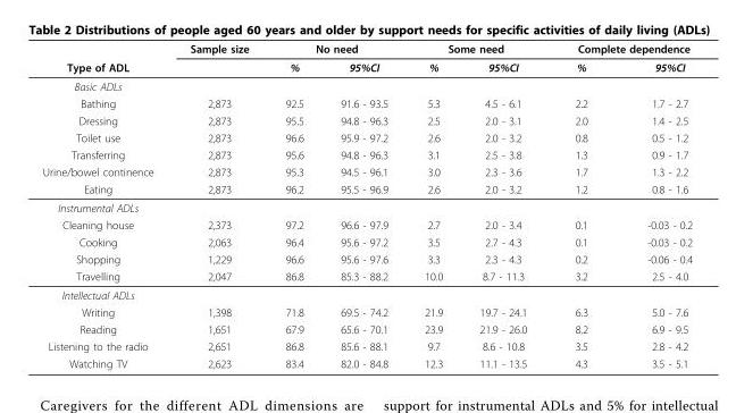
<table><thead><tr><td rowspan="2">Type of ADL</td><td rowspan="2">Sample size</td><td colspan="2">No need</td><td colspan="2">Some need</td><td colspan="2">Complete dependence</td></tr><tr><td>%</td><td>95%CI</td><td>%</td><td>95%CI</td><td>%</td><td>95%CI</td></tr></thead><tbody><tr><td colspan="8">Basic ADLs</td></tr><tr><td>Bathing</td><td>2,873</td><td>92.5</td><td>91.6 - 93.5</td><td>5.3</td><td>4.5 - 6.1</td><td>2.2</td><td>1.7 - 2.7</td></tr><tr><td>Dressing</td><td>2,873</td><td>95.5</td><td>94.8 - 96.3</td><td>2.5</td><td>2.0 - 3.1</td><td>2.0</td><td>1.4 - 2.5</td></tr><tr><td>Toilet use</td><td>2,873</td><td>96.6</td><td>95.9 - 97.2</td><td>2.6</td><td>2.0 - 3.2</td><td>0.8</td><td>0.5 - 1.2</td></tr><tr><td>Transferring</td><td>2,873</td><td>95.6</td><td>94.8 - 96.3</td><td>3.1</td><td>2.5 - 3.8</td><td>1.3</td><td>0.9 - 1.7</td></tr><tr><td>Urine/bowel continence</td><td>2,873</td><td>95.3</td><td>94.5 - 96.1</td><td>3.0</td><td>2.3 - 3.6</td><td>1.7</td><td>1.3 - 2.2</td></tr><tr><td>Eating</td><td>2,873</td><td>96.2</td><td>95.5 - 96.9</td><td>2.6</td><td>2.0 - 3.2</td><td>1.2</td><td>0.8 - 1.6</td></tr><tr><td colspan="8">Instrumental ADLs</td></tr><tr><td>Cleaning house</td><td>2,373</td><td>97.2</td><td>96.6 - 97.9</td><td>2.7</td><td>2.0 - 3.4</td><td>0.1</td><td>-0.03 - 0.2</td></tr><tr><td>Cooking</td><td>2,063</td><td>96.4</td><td>95.6 - 97.2</td><td>3.5</td><td>2.7 - 4.3</td><td>0.1</td><td>-0.03 - 0.2</td></tr><tr><td>Shopping</td><td>1,229</td><td>96.6</td><td>95.6 - 97.6</td><td>3.3</td><td>2.3 - 4.3</td><td>0.2</td><td>-0.06 - 0.4</td></tr><tr><td>Travelling</td><td>2,047</td><td>86.8</td><td>85.3 - 88.2</td><td>10.0</td><td>8.7 - 11.3</td><td>3.2</td><td>2.5 - 4.0</td></tr><tr><td colspan="8">Intellectual ADLs</td></tr><tr><td>Writing</td><td>1,398</td><td>71.8</td><td>69.5 - 74.2</td><td>21.9</td><td>19.7 - 24.1</td><td>6.3</td><td>5.0 - 7.6</td></tr><tr><td>Reading</td><td>1,651</td><td>67.9</td><td>65.6 - 70.1</td><td>23.9</td><td>21.9 - 26.0</td><td>8.2</td><td>6.9 - 9.5</td></tr><tr><td>Listening to the radio</td><td>2,651</td><td>86.8</td><td>85.6 - 88.1</td><td>9.7</td><td>8.6 - 10.8</td><td>3.5</td><td>2.8 - 4.2</td></tr><tr><td>Watching TV</td><td>2,623</td><td>83.4</td><td>82.0 - 84.8</td><td>12.3</td><td>11.1 - 13.5</td><td>4.3</td><td>3.5 - 5.1</td></tr></tbody></table>